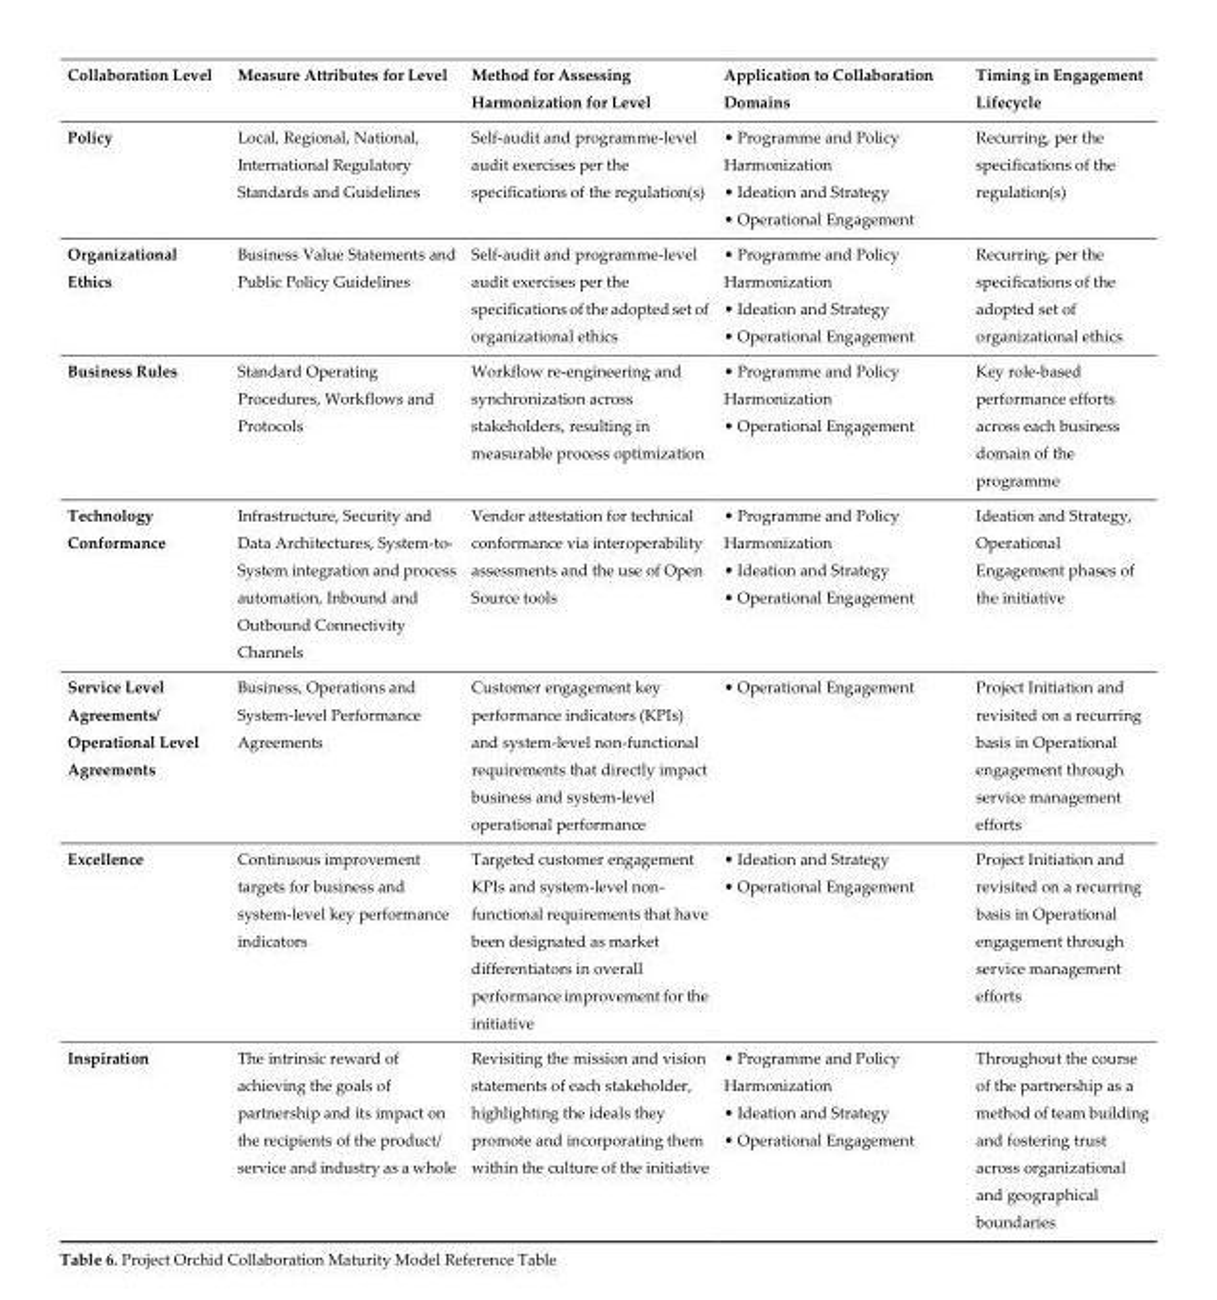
<table><thead><tr><td>Collaboration Level</td><td>Measure Attributes for Level</td><td>Method for Assessing Harmonization for Level</td><td>Application to Collaboration Domains</td><td>Timing in Engagement Lifecycle</td></tr></thead><tbody><tr><td>Policy</td><td>Local, Regional, National, International Regulatory Standards and Guidelines</td><td>Self-audit and programme-level audit exercises per the specifications of the regulation(s)</td><td>• Programme and Policy Harmonization • Ideation and Strategy • Operational Engagement</td><td>Recurring, per the specifications of the regulation(s)</td></tr><tr><td>Organizational Ethics</td><td>Business Value Statements and Public Policy Guidelines</td><td>Self-audit and programme-level audit exercises per the specifications of the adopted set of organizational ethics</td><td>• Programme and Policy Harmonization • Ideation and Strategy • Operational Engagement</td><td>Recurring, per the specifications of the adopted set of organizational ethics</td></tr><tr><td>Business Rules</td><td>Standard Operating Procedures, Workflows and Protocols</td><td>Workflow re-engineering and synchronization across stakeholders, resulting in measurable process optimization</td><td>• Programme and Policy Harmonization • Operational Engagement</td><td>Key role-based performance efforts across each business domain of the programme</td></tr><tr><td>Technology Conformance</td><td>Infrastructure, Security and Data Architectures, System-to- System integration and process automation, Inbound and Outbound Connectivity Channels</td><td>Vendor attestation for technical conformance via interoperability assessments and the use of Open Source tools</td><td>• Programme and Policy Harmonization • Ideation and Strategy • Operational Engagement</td><td>Ideation and Strategy, Operational Engagement phases of the initiative</td></tr><tr><td>Service Level Agreements/ Operational Level Agreements</td><td>Business, Operations and System-level Performance Agreements</td><td>Customer engagement key performance indicators (KPIs) and system-level non-functional requirements that directly impact business and system-level operational performance</td><td>• Operational Engagement</td><td>Project Initiation and revisited on a recurring basis in Operational engagement through service management efforts</td></tr><tr><td>Excellence</td><td>Continuous improvement targets for business and system-level key performance indicators</td><td>Targeted customer engagement KPIs and system-level non- functional requirements that have been designated as market differentiators in overall performance improvement for the initiative</td><td>• Ideation and Strategy • Operational Engagement</td><td>Project Initiation and revisited on a recurring basis in Operational engagement through service management efforts</td></tr><tr><td>Inspiration</td><td>The intrinsic reward of achieving the goals of partnership and its impact on the recipients of the product/ service and industry as a whole</td><td>Revisiting the mission and vision statements of each stakeholder, highlighting the ideals they promote and incorporating them within the culture of the initiative</td><td>• Programme and Policy Harmonization • Ideation and Strategy • Operational Engagement</td><td>Throughout the course of the partnership as a method of team building and fostering trust across organizational and geographical boundaries</td></tr></tbody></table>